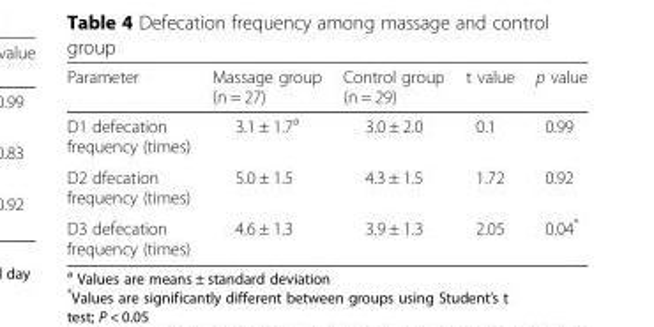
<table><thead><tr><td>Parameter</td><td>Massage group (n = 27)</td><td>Control group (n = 29)</td><td>t value</td><td>p value</td></tr></thead><tbody><tr><td>D1 defecation frequency (times)</td><td>3.1 ± 1.7<sup>a</sup></td><td>3.0 ± 2.0</td><td>0.1</td><td>0.99</td></tr><tr><td>D2 dfecation frequency (times)</td><td>5.0 ± 1.5</td><td>4.3 ± 1.5</td><td>1.72</td><td>0.92</td></tr><tr><td>D3 defecation frequency (times)</td><td>4.6 ± 1.3</td><td>3.9 ± 1.3</td><td>2.05</td><td>0.04*</td></tr></tbody></table>